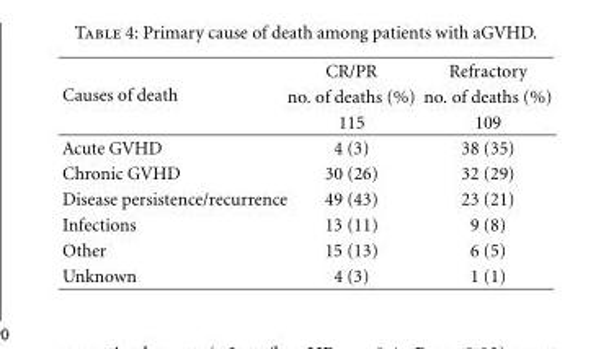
<table><thead><tr><td rowspan="3">Causes of death</td><td rowspan="3">CR/PR no. of deaths (%) 115</td><td rowspan="3">Refractory no. of deaths (%) 109</td></tr><tr></tr><tr></tr></thead><tbody><tr><td>Acute GVHD</td><td>4 (3)</td><td>38 (35)</td></tr><tr><td>Chronic GVHD</td><td>30 (26)</td><td>32 (29)</td></tr><tr><td>Disease persistence/recurrence</td><td>49 (43)</td><td>23 (21)</td></tr><tr><td>Infections</td><td>13 (11)</td><td>9 (8)</td></tr><tr><td>Other</td><td>15 (13)</td><td>6 (5)</td></tr><tr><td>Unknown</td><td>4 (3)</td><td>1 (1)</td></tr></tbody></table>